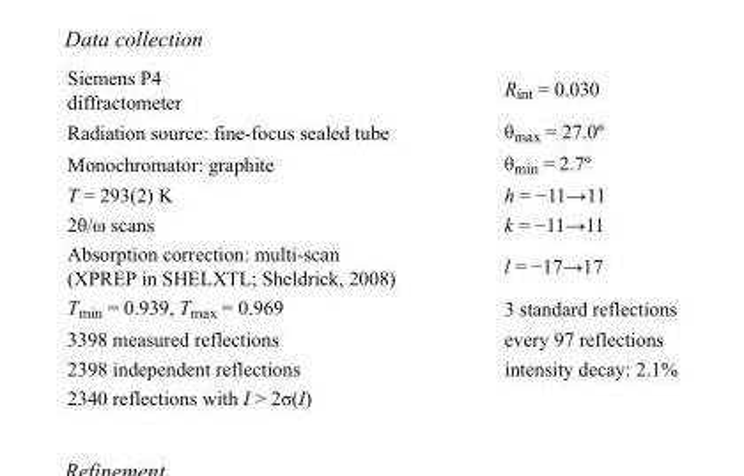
<table><tbody><tr><td>Siemens P4 diffractometer</td><td>R<sub>int</sub> = 0.030</td></tr><tr><td>Radiation source: fine-focus sealed tube</td><td>θ<sub>max</sub> = 27.0º</td></tr><tr><td>Monochromator: graphite</td><td>θ<sub>min</sub> = 2.7º</td></tr><tr><td>T = 293(2) K</td><td>h = −11→11</td></tr><tr><td>2θ/ω scans</td><td>k = −11→11</td></tr><tr><td>Absorption correction: multi-scan (XPREP in SHELXTL; Sheldrick, 2008)</td><td>l = −17→17</td></tr><tr><td>T<sub>min</sub> = 0.939, T<sub>max</sub> = 0.969</td><td>3 standard reflections</td></tr><tr><td>3398 measured reflections</td><td>every 97 reflections</td></tr><tr><td>2398 independent reflections</td><td>intensity decay: 2.1%</td></tr><tr><td>2340 reflections with I &gt; 2σ(I)</td><td></td></tr></tbody></table>